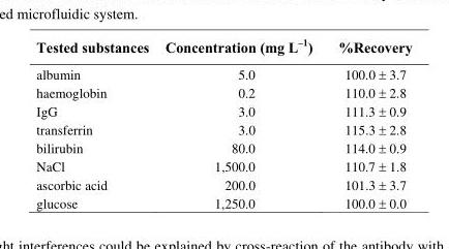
<table><thead><tr><td>Tested substances</td><td>Concentration (mg L<sup>–1</sup>)</td><td>%Recovery</td></tr></thead><tbody><tr><td>albumin</td><td>5.0</td><td>100.0 ± 3.7</td></tr><tr><td>haemoglobin</td><td>0.2</td><td>110.0 ± 2.8</td></tr><tr><td>IgG</td><td>3.0</td><td>111.3 ± 0.9</td></tr><tr><td>transferrin</td><td>3.0</td><td>115.3 ± 2.8</td></tr><tr><td>bilirubin</td><td>80.0</td><td>114.0 ± 0.9</td></tr><tr><td>NaCl</td><td>1,500.0</td><td>110.7 ± 1.8</td></tr><tr><td>ascorbic acid</td><td>200.0</td><td>101.3 ± 3.7</td></tr><tr><td>glucose</td><td>1,250.0</td><td>100.0 ± 0.0</td></tr></tbody></table>